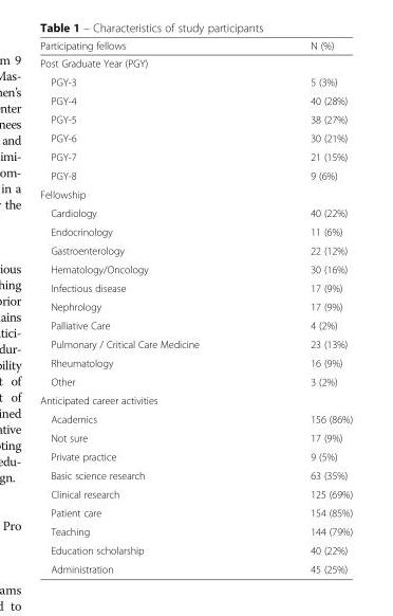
<table><thead><tr><td>Participating fellows</td><td>N (%)</td></tr></thead><tbody><tr><td colspan="2">Post Graduate Year (PGY)</td></tr><tr><td>PGY-3</td><td>5 (3%)</td></tr><tr><td>PGY-4</td><td>40 (28%)</td></tr><tr><td>PGY-5</td><td>38 (27%)</td></tr><tr><td>PGY-6</td><td>30 (21%)</td></tr><tr><td>PGY-7</td><td>21 (15%)</td></tr><tr><td>PGY-8</td><td>9 (6%)</td></tr><tr><td colspan="2">Fellowship</td></tr><tr><td>Cardiology</td><td>40 (22%)</td></tr><tr><td>Endocrinology</td><td>11 (6%)</td></tr><tr><td>Gastroenterology</td><td>22 (12%)</td></tr><tr><td>Hematology/Oncology</td><td>30 (16%)</td></tr><tr><td>Infectious disease</td><td>17 (9%)</td></tr><tr><td>Nephrology</td><td>17 (9%)</td></tr><tr><td>Palliative Care</td><td>4 (2%)</td></tr><tr><td>Pulmonary / Critical Care Medicine</td><td>23 (13%)</td></tr><tr><td>Rheumatology</td><td>16 (9%)</td></tr><tr><td>Other</td><td>3 (2%)</td></tr><tr><td colspan="2">Anticipated career activities</td></tr><tr><td>Academics</td><td>156 (86%)</td></tr><tr><td>Not sure</td><td>17 (9%)</td></tr><tr><td>Private practice</td><td>9 (5%)</td></tr><tr><td>Basic science research</td><td>63 (35%)</td></tr><tr><td>Clinical research</td><td>125 (69%)</td></tr><tr><td>Patient care</td><td>154 (85%)</td></tr><tr><td>Teaching</td><td>144 (79%)</td></tr><tr><td>Education scholarship</td><td>40 (22%)</td></tr><tr><td>Administration</td><td>45 (25%)</td></tr></tbody></table>